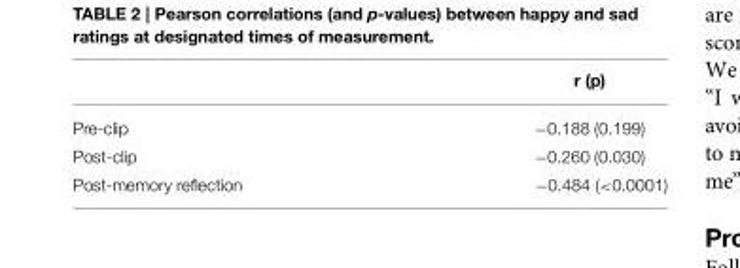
<table><thead><tr><td></td><td>r (p)</td></tr></thead><tbody><tr><td>Pre-clip</td><td>−0.188 (0.199)</td></tr><tr><td>Post-clip</td><td>−0.260 (0.030)</td></tr><tr><td>Post-memory reflection</td><td>−0.484 (&lt;0.0001)</td></tr></tbody></table>